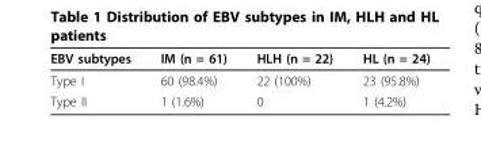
<table><thead><tr><td>EBV subtypes</td><td>IM (n = 61)</td><td>HLH (n = 22)</td><td>HL (n = 24)</td></tr></thead><tbody><tr><td>Type I</td><td>60 (98.4%)</td><td>22 (100%)</td><td>23 (95.8%)</td></tr><tr><td>Type II</td><td>1 (1.6%)</td><td>0</td><td>1 (4.2%)</td></tr></tbody></table>